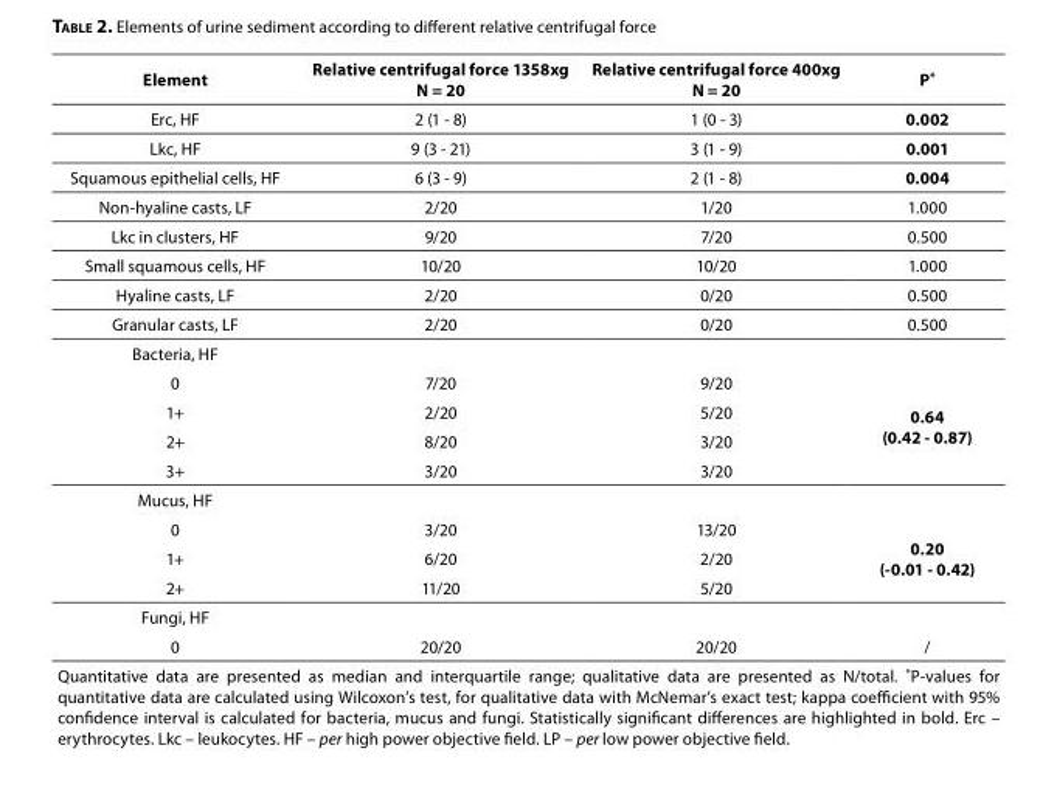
<table><thead><tr><td>Element</td><td>Relative centrifugal force 1358xg N = 20</td><td>Relative centrifugal force 400xg N = 20</td><td>P*</td></tr></thead><tbody><tr><td>Erc, HF</td><td>2 (1 - 8)</td><td>1 (0 - 3)</td><td>0.002</td></tr><tr><td>Lkc, HF</td><td>9 (3 - 21)</td><td>3 (1 - 9)</td><td>0.001</td></tr><tr><td>Squamous epithelial cells, HF</td><td>6 (3 - 9)</td><td>2 (1 - 8)</td><td>0.004</td></tr><tr><td>Non-hyaline casts, LF</td><td>2/20</td><td>1/20</td><td>1.000</td></tr><tr><td>Lkc in clusters, HF</td><td>9/20</td><td>7/20</td><td>0.500</td></tr><tr><td>Small squamous cells, HF</td><td>10/20</td><td>10/20</td><td>1.000</td></tr><tr><td>Hyaline casts, LF</td><td>2/20</td><td>0/20</td><td>0.500</td></tr><tr><td>Granular casts, LF</td><td>2/20</td><td>0/20</td><td>0.500</td></tr><tr><td colspan="4">Bacteria, HF</td></tr><tr><td>0</td><td>7/20</td><td>9/20</td><td rowspan="4">0.64 (0.42 - 0.87)</td></tr><tr><td>1+</td><td>2/20</td><td>5/20</td></tr><tr><td>2+</td><td>8/20</td><td>3/20</td></tr><tr><td>3+</td><td>3/20</td><td>3/20</td></tr><tr><td colspan="4">Mucus, HF</td></tr><tr><td>0</td><td>3/20</td><td>13/20</td><td rowspan="3">0.20 (-0.01 - 0.42)</td></tr><tr><td>1+</td><td>6/20</td><td>2/20</td></tr><tr><td>2+</td><td>11/20</td><td>5/20</td></tr><tr><td colspan="4">Fungi, HF</td></tr><tr><td>0</td><td>20/20</td><td>20/20</td><td>/</td></tr><tr><td colspan="4">Quantitative data are presented as median and interquartile range; qualitative data are presented as N/total. *P-values for quantitative data are calculated using Wilcoxon’s test, for qualitative data with McNemar’s exact test; kappa coefficient with 95% confidence interval is calculated for bacteria, mucus and fungi. Statistically significant differences are highlighted in bold. Erc – erythrocytes. Lkc – leukocytes. HF – per high power objective field. LP – per low power objective field.</td></tr></tbody></table>